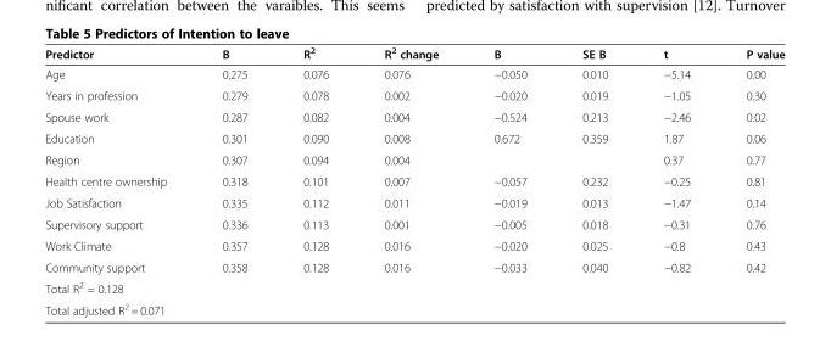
<table><thead><tr><td>Predictor</td><td>B</td><td>R<sup>2</sup></td><td>R<sup>2</sup> change</td><td>B</td><td>SE B</td><td>t</td><td>P value</td></tr></thead><tbody><tr><td>Age</td><td>0.275</td><td>0.076</td><td>0.076</td><td>−0.050</td><td>0.010</td><td>−5.14</td><td>0.00</td></tr><tr><td>Years in profession</td><td>0.279</td><td>0.078</td><td>0.002</td><td>−0.020</td><td>0.019</td><td>−1.05</td><td>0.30</td></tr><tr><td>Spouse work</td><td>0.287</td><td>0.082</td><td>0.004</td><td>−0.524</td><td>0.213</td><td>−2.46</td><td>0.02</td></tr><tr><td>Education</td><td>0.301</td><td>0.090</td><td>0.008</td><td>0.672</td><td>0.359</td><td>1.87</td><td>0.06</td></tr><tr><td>Region</td><td>0.307</td><td>0.094</td><td>0.004</td><td></td><td></td><td>0.37</td><td>0.77</td></tr><tr><td>Health centre ownership</td><td>0.318</td><td>0.101</td><td>0.007</td><td>−0.057</td><td>0.232</td><td>−0.25</td><td>0.81</td></tr><tr><td>Job Satisfaction</td><td>0.335</td><td>0.112</td><td>0.011</td><td>−0.019</td><td>0.013</td><td>−1.47</td><td>0.14</td></tr><tr><td>Supervisory support</td><td>0.336</td><td>0.113</td><td>0.001</td><td>−0.005</td><td>0.018</td><td>−0.31</td><td>0.76</td></tr><tr><td>Work Climate</td><td>0.357</td><td>0.128</td><td>0.016</td><td>−0.020</td><td>0.025</td><td>−0.8</td><td>0.43</td></tr><tr><td>Community support</td><td>0.358</td><td>0.128</td><td>0.016</td><td>−0.033</td><td>0.040</td><td>−0.82</td><td>0.42</td></tr><tr><td colspan="8">Total R<sup>2</sup> = 0.128</td></tr><tr><td>Total adjusted R<sup>2</sup> = 0.071</td><td></td><td></td><td></td><td></td><td></td><td></td><td></td></tr></tbody></table>